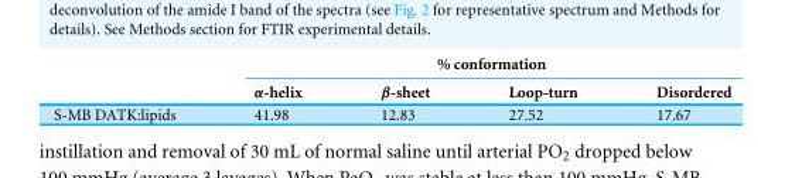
<table><thead><tr><td rowspan="2"></td><td colspan="4">% conformation</td></tr><tr><td>α-helix</td><td>β-sheet</td><td>Loop-turn</td><td>Disordered</td></tr></thead><tbody><tr><td>S-MB DATK:lipids</td><td>41.98</td><td>12.83</td><td>27.52</td><td>17.67</td></tr></tbody></table>